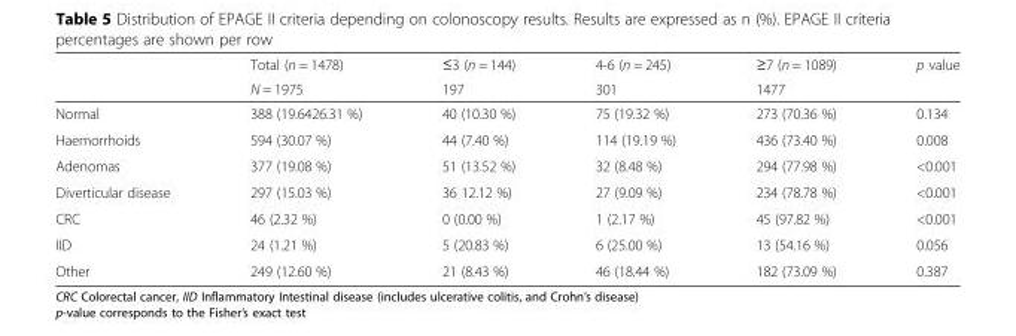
<table><thead><tr><td rowspan="2"></td><td rowspan="2">Total (n = 1478) N = 1975</td><td rowspan="2">≤3 (n = 144) 197</td><td rowspan="2">4-6 (n = 245) 301</td><td rowspan="2">≥7 (n = 1089) 1477</td><td rowspan="2">p value</td></tr><tr></tr></thead><tbody><tr><td>Normal</td><td>388 (19.6426.31 %)</td><td>40 (10.30 %)</td><td>75 (19.32 %)</td><td>273 (70.36 %)</td><td>0.134</td></tr><tr><td>Haemorrhoids</td><td>594 (30.07 %)</td><td>44 (7.40 %)</td><td>114 (19.19 %)</td><td>436 (73.40 %)</td><td>0.008</td></tr><tr><td>Adenomas</td><td>377 (19.08 %)</td><td>51 (13.52 %)</td><td>32 (8.48 %)</td><td>294 (77.98 %)</td><td>&lt;0.001</td></tr><tr><td>Diverticular disease</td><td>297 (15.03 %)</td><td>36 12.12 %)</td><td>27 (9.09 %)</td><td>234 (78.78 %)</td><td>&lt;0.001</td></tr><tr><td>CRC</td><td>46 (2.32 %)</td><td>0 (0.00 %)</td><td>1 (2.17 %)</td><td>45 (97.82 %)</td><td>&lt;0.001</td></tr><tr><td>IID</td><td>24 (1.21 %)</td><td>5 (20.83 %)</td><td>6 (25.00 %)</td><td>13 (54.16 %)</td><td>0.056</td></tr><tr><td>Other</td><td>249 (12.60 %)</td><td>21 (8.43 %)</td><td>46 (18.44 %)</td><td>182 (73.09 %)</td><td>0.387</td></tr></tbody></table>